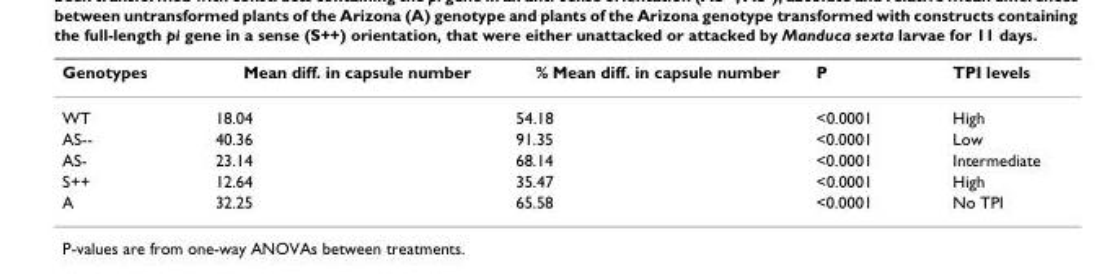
<table><thead><tr><td>Genotypes</td><td>Mean diff. in capsule number</td><td>% Mean diff. in capsule number</td><td>P</td><td>TPI levels</td></tr></thead><tbody><tr><td>WT</td><td>18.04</td><td>54.18</td><td>&lt;0.0001</td><td>High</td></tr><tr><td>AS--</td><td>40.36</td><td>91.35</td><td>&lt;0.0001</td><td>Low</td></tr><tr><td>AS-</td><td>23.14</td><td>68.14</td><td>&lt;0.0001</td><td>Intermediate</td></tr><tr><td>S++</td><td>12.64</td><td>35.47</td><td>&lt;0.0001</td><td>High</td></tr><tr><td>A</td><td>32.25</td><td>65.58</td><td>&lt;0.0001</td><td>No TPI</td></tr></tbody></table>